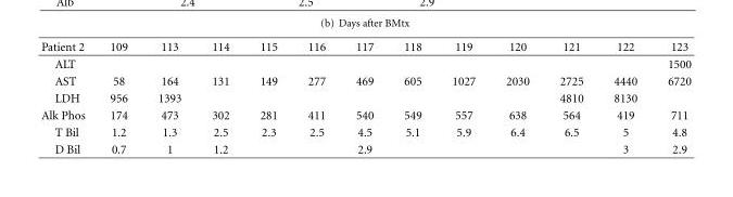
<table><thead><tr><td>Patient 2</td><td>109</td><td>113</td><td>114</td><td>115</td><td>116</td><td>117</td><td>118</td><td>119</td><td>120</td><td>121</td><td>122</td><td>123</td></tr></thead><tbody><tr><td>ALT</td><td></td><td></td><td></td><td></td><td></td><td></td><td></td><td></td><td></td><td></td><td></td><td>1500</td></tr><tr><td>AST</td><td>58</td><td>164</td><td>131</td><td>149</td><td>277</td><td>469</td><td>605</td><td>1027</td><td>2030</td><td>2725</td><td>4440</td><td>6720</td></tr><tr><td>LDH</td><td>956</td><td>1393</td><td></td><td></td><td></td><td></td><td></td><td></td><td></td><td>4810</td><td>8130</td><td></td></tr><tr><td>Alk Phos</td><td>174</td><td>473</td><td>302</td><td>281</td><td>411</td><td>540</td><td>549</td><td>557</td><td>638</td><td>564</td><td>419</td><td>711</td></tr><tr><td>T Bil</td><td>1.2</td><td>1.3</td><td>2.5</td><td>2.3</td><td>2.5</td><td>4.5</td><td>5.1</td><td>5.9</td><td>6.4</td><td>6.5</td><td>5</td><td>4.8</td></tr><tr><td>D Bil</td><td>0.7</td><td>1</td><td>1.2</td><td></td><td></td><td>2.9</td><td></td><td></td><td></td><td></td><td>3</td><td>2.9</td></tr></tbody></table>